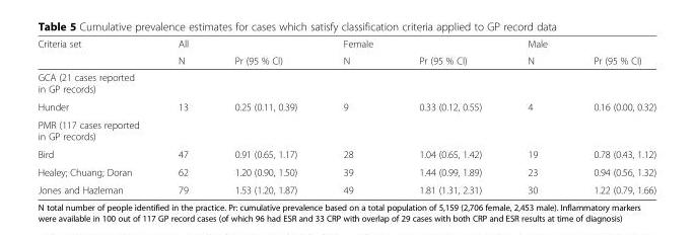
<table><thead><tr><td rowspan="2">Criteria set</td><td rowspan="2">All N</td><td rowspan="2">Pr (95 % CI)</td><td rowspan="2">Female N</td><td rowspan="2">Pr (95 % CI)</td><td rowspan="2">Male N</td><td rowspan="2">Pr (95 % CI)</td></tr><tr></tr></thead><tbody><tr><td colspan="7">GCA (21 cases reported in GP records)</td></tr><tr><td>Hunder</td><td>13</td><td>0.25 (0.11, 0.39)</td><td>9</td><td>0.33 (0.12, 0.55)</td><td>4</td><td>0.16 (0.00, 0.32)</td></tr><tr><td colspan="7">PMR (117 cases reported in GP records)</td></tr><tr><td>Bird</td><td>47</td><td>0.91 (0.65, 1.17)</td><td>28</td><td>1.04 (0.65, 1.42)</td><td>19</td><td>0.78 (0.43, 1.12)</td></tr><tr><td>Healey; Chuang; Doran</td><td>62</td><td>1.20 (0.90, 1.50)</td><td>39</td><td>1.44 (0.99, 1.89)</td><td>23</td><td>0.94 (0.56, 1.32)</td></tr><tr><td>Jones and Hazleman</td><td>79</td><td>1.53 (1.20, 1.87)</td><td>49</td><td>1.81 (1.31, 2.31)</td><td>30</td><td>1.22 (0.79, 1.66)</td></tr></tbody></table>